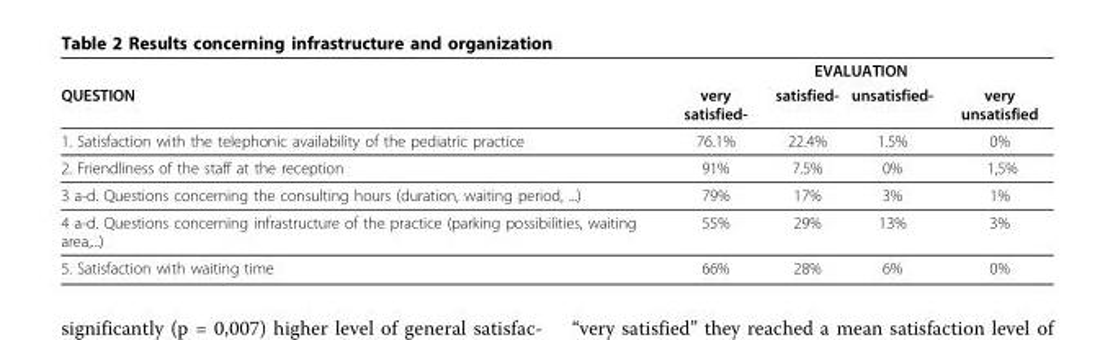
<table><thead><tr><td rowspan="2">QUESTION</td><td colspan="4">EVALUATION</td></tr><tr><td>very satisfied-</td><td>satisfied-</td><td>unsatisfied-</td><td>very unsatisfied</td></tr></thead><tbody><tr><td>1. Satisfaction with the telephonic availability of the pediatric practice</td><td>76.1%</td><td>22.4%</td><td>1.5%</td><td>0%</td></tr><tr><td>2. Friendliness of the staff at the reception</td><td>91%</td><td>7.5%</td><td>0%</td><td>1,5%</td></tr><tr><td>3 a-d. Questions concerning the consulting hours (duration, waiting period, ...)</td><td>79%</td><td>17%</td><td>3%</td><td>1%</td></tr><tr><td>4 a-d. Questions concerning infrastructure of the practice (parking possibilities, waiting area,...)</td><td>55%</td><td>29%</td><td>13%</td><td>3%</td></tr><tr><td>5. Satisfaction with waiting time</td><td>66%</td><td>28%</td><td>6%</td><td>0%</td></tr></tbody></table>